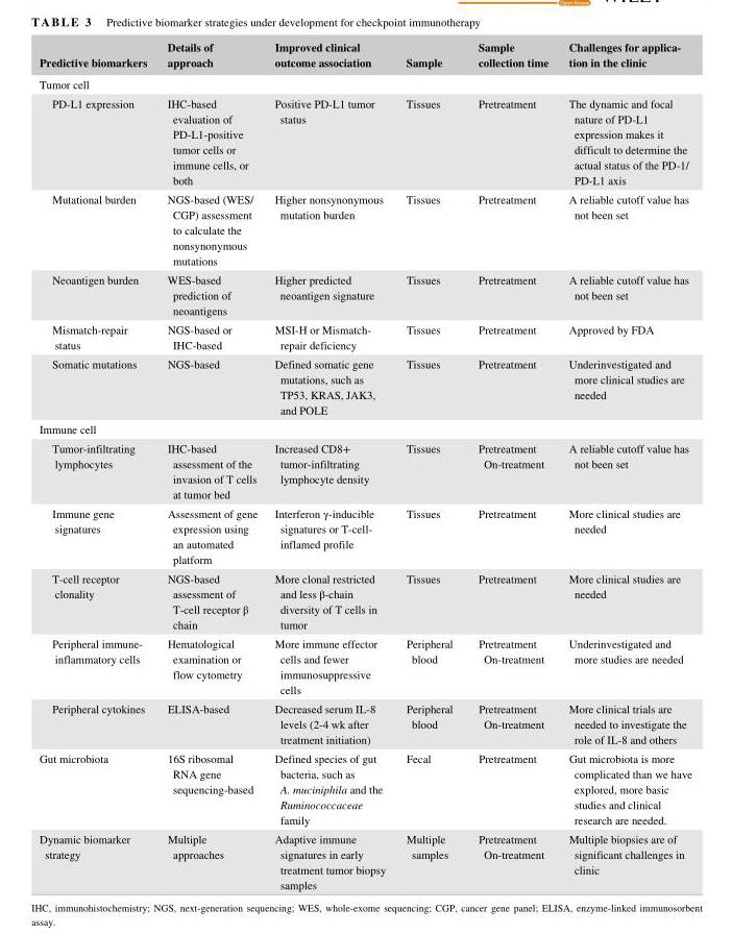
<table><thead><tr><td>Predictive biomarkers</td><td>Details of approach</td><td>Improved clinical outcome association</td><td>Sample</td><td>Sample collection time</td><td>Challenges for applica- tion in the clinic</td></tr></thead><tbody><tr><td colspan="6">Tumor cell</td></tr><tr><td>PD- L1 expression</td><td>IHC- based evaluation of PD- L1- positive tumor cells or immune cells, or both</td><td>Positive PD- L1 tumor status</td><td>Tissues</td><td>Pretreatment</td><td>The dynamic and focal nature of PD- L1 expression makes it difficult to determine the actual status of the PD- 1/ PD- L1 axis</td></tr><tr><td>Mutational burden</td><td>NGS- based (WES/ CGP) assessment to calculate the nonsynonymous mutations</td><td>Higher nonsynonymous mutation burden</td><td>Tissues</td><td>Pretreatment</td><td>A reliable cutoff value has not been set</td></tr><tr><td>Neoantigen burden</td><td>WES- based prediction of neoantigens</td><td>Higher predicted neoantigen signature</td><td>Tissues</td><td>Pretreatment</td><td>A reliable cutoff value has not been set</td></tr><tr><td>Mismatch- repair status</td><td>NGS- based or IHC- based</td><td>MSI- H or Mismatch- repair deficiency</td><td>Tissues</td><td>Pretreatment</td><td>Approved by FDA</td></tr><tr><td>Somatic mutations</td><td>NGS- based</td><td>Defined somatic gene mutations, such as TP53, KRAS, JAK3, and POLE</td><td>Tissues</td><td>Pretreatment</td><td>Underinvestigated and more clinical studies are needed</td></tr><tr><td colspan="6">Immune cell</td></tr><tr><td>Tumor- infiltrating lymphocytes</td><td>IHC- based assessment of the invasion of T cells at tumor bed</td><td>Increased CD8+ tumor- infiltrating lymphocyte density</td><td>Tissues</td><td>Pretreatment On- treatment</td><td>A reliable cutoff value has not been set</td></tr><tr><td>Immune gene signatures</td><td>Assessment of gene expression using an automated platform</td><td>Interferon γ- inducible signatures or T- cell- inflamed profile</td><td>Tissues</td><td>Pretreatment</td><td>More clinical studies are needed</td></tr><tr><td>T- cell receptor clonality</td><td>NGS- based assessment of T- cell receptor β chain</td><td>More clonal restricted and less β- chain diversity of T cells in tumor</td><td>Tissues</td><td>Pretreatment</td><td>More clinical studies are needed</td></tr><tr><td>Peripheral immune- inflammatory cells</td><td>Hematological examination or flow cytometry</td><td>More immune effector cells and fewer immunosuppressive cells</td><td>Peripheral blood</td><td>Pretreatment On- treatment</td><td>Underinvestigated and more studies are needed</td></tr><tr><td>Peripheral cytokines</td><td>ELISA- based</td><td>Decreased serum IL- 8 levels (2- 4 wk after treatment initiation)</td><td>Peripheral blood</td><td>Pretreatment On- treatment</td><td>More clinical trials are needed to investigate the role of IL- 8 and others</td></tr><tr><td>Gut microbiota</td><td>16S ribosomal RNA gene sequencing- based</td><td>Defined species of gut bacteria, such as A. muciniphila and the Ruminococcaceae family</td><td>Fecal</td><td>Pretreatment</td><td>Gut microbiota is more complicated than we have explored, more basic studies and clinical research are needed.</td></tr><tr><td>Dynamic biomarker strategy</td><td>Multiple approaches</td><td>Adaptive immune signatures in early treatment tumor biopsy samples</td><td>Multiple samples</td><td>Pretreatment On- treatment</td><td>Multiple biopsies are of significant challenges in clinic</td></tr></tbody></table>